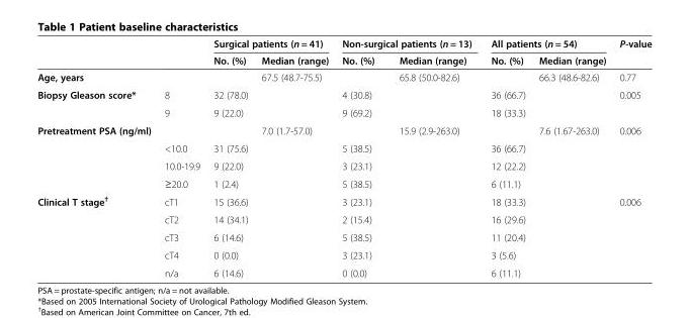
<table><thead><tr><td rowspan="2"></td><td rowspan="2"></td><td colspan="2">Surgical patients (n = 41)</td><td colspan="2">Non-surgical patients (n = 13)</td><td colspan="2">All patients (n = 54)</td><td rowspan="2">P-value</td></tr><tr><td>No. (%)</td><td>Median (range)</td><td>No. (%)</td><td>Median (range)</td><td>No. (%)</td><td>Median (range)</td></tr></thead><tbody><tr><td>Age, years</td><td></td><td></td><td>67.5 (48.7-75.5)</td><td></td><td>65.8 (50.0-82.6)</td><td></td><td>66.3 (48.6-82.6)</td><td>0.77</td></tr><tr><td rowspan="2">Biopsy Gleason score*</td><td>8</td><td>32 (78.0)</td><td></td><td>4 (30.8)</td><td></td><td>36 (66.7)</td><td></td><td>0.005</td></tr><tr><td>9</td><td>9 (22.0)</td><td></td><td>9 (69.2)</td><td></td><td>18 (33.3)</td><td></td><td></td></tr><tr><td rowspan="4">Pretreatment PSA (ng/ml)</td><td></td><td></td><td>7.0 (1.7-57.0)</td><td></td><td>15.9 (2.9-263.0)</td><td></td><td>7.6 (1.67-263.0)</td><td>0.006</td></tr><tr><td>&lt;10.0</td><td>31 (75.6)</td><td></td><td>5 (38.5)</td><td></td><td>36 (66.7)</td><td></td><td></td></tr><tr><td>10.0-19.9</td><td>9 (22.0)</td><td></td><td>3 (23.1)</td><td></td><td>12 (22.2)</td><td></td><td></td></tr><tr><td>≥20.0</td><td>1 (2.4)</td><td></td><td>5 (38.5)</td><td></td><td>6 (11.1)</td><td></td><td></td></tr><tr><td rowspan="5">Clinical T stage<sup>†</sup></td><td>cT1</td><td>15 (36.6)</td><td></td><td>3 (23.1)</td><td></td><td>18 (33.3)</td><td></td><td>0.006</td></tr><tr><td>cT2</td><td>14 (34.1)</td><td></td><td>2 (15.4)</td><td></td><td>16 (29.6)</td><td></td><td></td></tr><tr><td>cT3</td><td>6 (14.6)</td><td></td><td>5 (38.5)</td><td></td><td>11 (20.4)</td><td></td><td></td></tr><tr><td>cT4</td><td>0 (0.0)</td><td></td><td>3 (23.1)</td><td></td><td>3 (5.6)</td><td></td><td></td></tr><tr><td>n/a</td><td>6 (14.6)</td><td></td><td>0 (0.0)</td><td></td><td>6 (11.1)</td><td></td><td></td></tr></tbody></table>